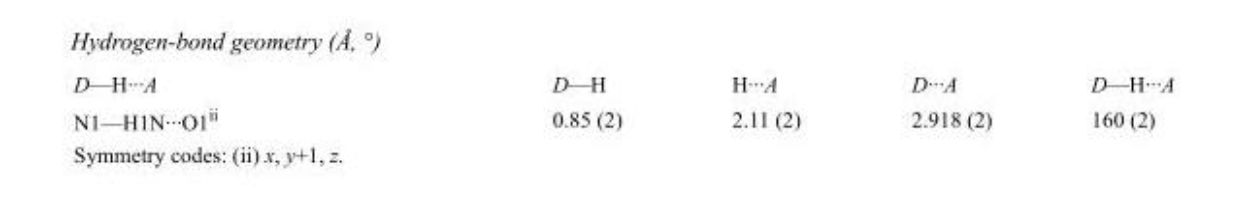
<table><tbody><tr><td>D—H···A</td><td>D—H</td><td>H···A</td><td>D···A</td><td>D—H···A</td></tr><tr><td>N1—H1N···O1<sup>ii</sup></td><td>0.85 (2)</td><td>2.11 (2)</td><td>2.918 (2)</td><td>160 (2)</td></tr></tbody></table>